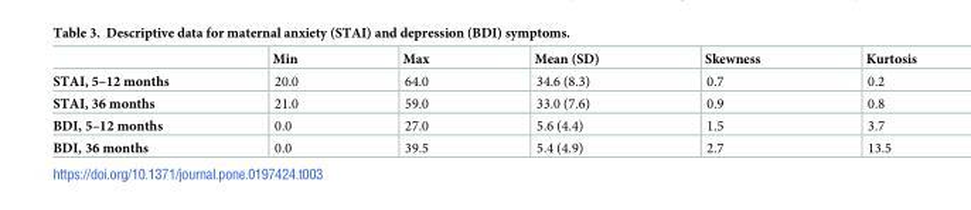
<table><thead><tr><td></td><td>Min</td><td>Max</td><td>Mean (SD)</td><td>Skewness</td><td>Kurtosis</td></tr></thead><tbody><tr><td>STAI, 5–12 months</td><td>20.0</td><td>64.0</td><td>34.6 (8.3)</td><td>0.7</td><td>0.2</td></tr><tr><td>STAI, 36 months</td><td>21.0</td><td>59.0</td><td>33.0 (7.6)</td><td>0.9</td><td>0.8</td></tr><tr><td>BDI, 5–12 months</td><td>0.0</td><td>27.0</td><td>5.6 (4.4)</td><td>1.5</td><td>3.7</td></tr><tr><td>BDI, 36 months</td><td>0.0</td><td>39.5</td><td>5.4 (4.9)</td><td>2.7</td><td>13.5</td></tr></tbody></table>